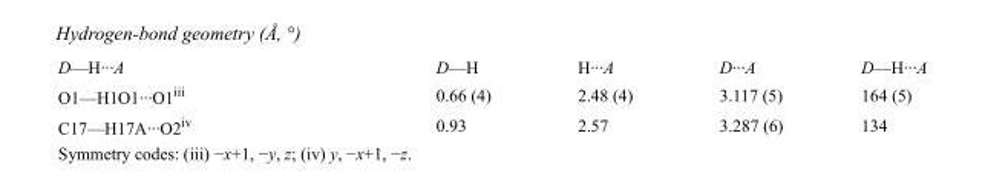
<table><tbody><tr><td>D—H···A</td><td>D—H</td><td>H···A</td><td>D···A</td><td>D—H···A</td></tr><tr><td>O1—H1O1···O1<sup>iii</sup></td><td>0.66 (4)</td><td>2.48 (4)</td><td>3.117 (5)</td><td>164 (5)</td></tr><tr><td>C17—H17A···O2<sup>iv</sup></td><td>0.93</td><td>2.57</td><td>3.287 (6)</td><td>134</td></tr></tbody></table>